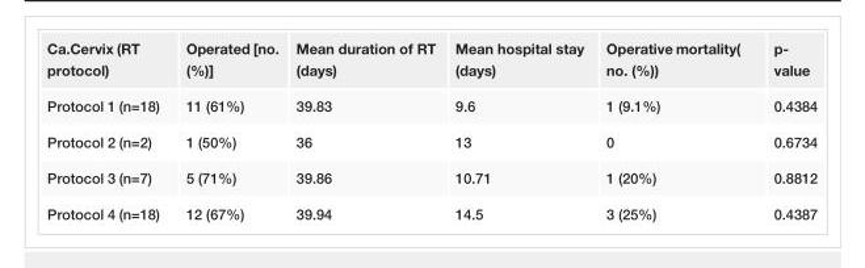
<table><tbody><tr><td>Ca.Cervix (RT protocol)</td><td>Operated [no. (%)]</td><td>Mean duration of RT (days)</td><td>Mean hospital stay (days)</td><td>Operative mortality( no. (%))</td><td>p- value</td></tr><tr><td>Protocol 1 (n=18)</td><td>11 (61%)</td><td>39.83</td><td>9.6</td><td>1 (9.1%)</td><td>0.4384</td></tr><tr><td>Protocol 2 (n=2)</td><td>1 (50%)</td><td>36</td><td>13</td><td>0</td><td>0.6734</td></tr><tr><td>Protocol 3 (n=7)</td><td>5 (71%)</td><td>39.86</td><td>10.71</td><td>1 (20%)</td><td>0.8812</td></tr><tr><td>Protocol 4 (n=18)</td><td>12 (67%)</td><td>39.94</td><td>14.5</td><td>3 (25%)</td><td>0.4387</td></tr></tbody></table>